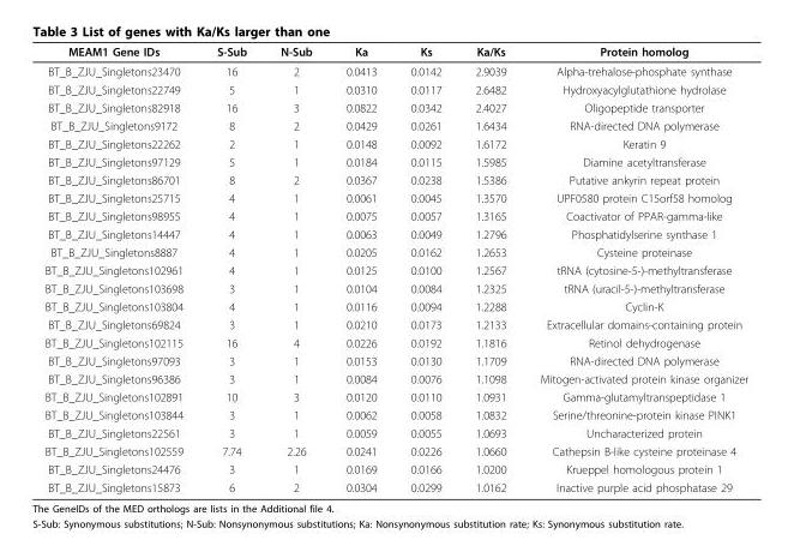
<table><thead><tr><td>MEAM1 Gene IDs</td><td>S-Sub</td><td>N-Sub</td><td>Ka</td><td>Ks</td><td>Ka/Ks</td><td>Protein homolog</td></tr></thead><tbody><tr><td>BT_B_ZJU_Singletons23470</td><td>16</td><td>2</td><td>0.0413</td><td>0.0142</td><td>2.9039</td><td>Alpha-trehalose-phosphate synthase</td></tr><tr><td>BT_B_ZJU_Singletons22749</td><td>5</td><td>1</td><td>0.0310</td><td>0.0117</td><td>2.6482</td><td>Hydroxyacylglutathione hydrolase</td></tr><tr><td>BT_B_ZJU_Singletons82918</td><td>16</td><td>3</td><td>0.0822</td><td>0.0342</td><td>2.4027</td><td>Oligopeptide transporter</td></tr><tr><td>BT_B_ZJU_Singletons9172</td><td>8</td><td>2</td><td>0.0429</td><td>0.0261</td><td>1.6434</td><td>RNA-directed DNA polymerase</td></tr><tr><td>BT_B_ZJU_Singletons22262</td><td>2</td><td>1</td><td>0.0148</td><td>0.0092</td><td>1.6172</td><td>Keratin 9</td></tr><tr><td>BT_B_ZJU_Singletons97129</td><td>5</td><td>1</td><td>0.0184</td><td>0.0115</td><td>1.5985</td><td>Diamine acetyltransferase</td></tr><tr><td>BT_B_ZJU_Singletons86701</td><td>8</td><td>2</td><td>0.0367</td><td>0.0238</td><td>1.5386</td><td>Putative ankyrin repeat protein</td></tr><tr><td>BT_B_ZJU_Singletons25715</td><td>4</td><td>1</td><td>0.0061</td><td>0.0045</td><td>1.3570</td><td>UPF0580 protein C15orf58 homolog</td></tr><tr><td>BT_B_ZJU_Singletons98955</td><td>4</td><td>1</td><td>0.0075</td><td>0.0057</td><td>1.3165</td><td>Coactivator of PPAR-gamma-like</td></tr><tr><td>BT_B_ZJU_Singletons14447</td><td>4</td><td>1</td><td>0.0063</td><td>0.0049</td><td>1.2796</td><td>Phosphatidylserine synthase 1</td></tr><tr><td>BT_B_ZJU_Singletons8887</td><td>4</td><td>1</td><td>0.0205</td><td>0.0162</td><td>1.2653</td><td>Cysteine proteinase</td></tr><tr><td>BT_B_ZJU_Singletons102961</td><td>4</td><td>1</td><td>0.0125</td><td>0.0100</td><td>1.2567</td><td>tRNA (cytosine-5-)-methyltransferase</td></tr><tr><td>BT_B_ZJU_Singletons103698</td><td>3</td><td>1</td><td>0.0104</td><td>0.0084</td><td>1.2325</td><td>tRNA (uracil-5-)-methyltransferase</td></tr><tr><td>BT_B_ZJU_Singletons103804</td><td>4</td><td>1</td><td>0.0116</td><td>0.0094</td><td>1.2288</td><td>Cyclin-K</td></tr><tr><td>BT_B_ZJU_Singletons69824</td><td>3</td><td>1</td><td>0.0210</td><td>0.0173</td><td>1.2133</td><td>Extracellular domains-containing protein</td></tr><tr><td>BT_B_ZJU_Singletons102115</td><td>16</td><td>4</td><td>0.0226</td><td>0.0192</td><td>1.1816</td><td>Retinol dehydrogenase</td></tr><tr><td>BT_B_ZJU_Singletons97093</td><td>3</td><td>1</td><td>0.0153</td><td>0.0130</td><td>1.1709</td><td>RNA-directed DNA polymerase</td></tr><tr><td>BT_B_ZJU_Singletons96386</td><td>3</td><td>1</td><td>0.0084</td><td>0.0076</td><td>1.1098</td><td>Mitogen-activated protein kinase organizer</td></tr><tr><td>BT_B_ZJU_Singletons102891</td><td>10</td><td>3</td><td>0.0120</td><td>0.0110</td><td>1.0931</td><td>Gamma-glutamyltranspeptidase 1</td></tr><tr><td>BT_B_ZJU_Singletons103844</td><td>3</td><td>1</td><td>0.0062</td><td>0.0058</td><td>1.0832</td><td>Serine/threonine-protein kinase PINK1</td></tr><tr><td>BT_B_ZJU_Singletons22561</td><td>3</td><td>1</td><td>0.0059</td><td>0.0055</td><td>1.0693</td><td>Uncharacterized protein</td></tr><tr><td>BT_B_ZJU_Singletons102559</td><td>7.74</td><td>2.26</td><td>0.0241</td><td>0.0226</td><td>1.0660</td><td>Cathepsin B-like cysteine proteinase 4</td></tr><tr><td>BT_B_ZJU_Singletons24476</td><td>3</td><td>1</td><td>0.0169</td><td>0.0166</td><td>1.0200</td><td>Krueppel homologous protein 1</td></tr><tr><td>BT_B_ZJU_Singletons15873</td><td>6</td><td>2</td><td>0.0304</td><td>0.0299</td><td>1.0162</td><td>Inactive purple acid phosphatase 29</td></tr></tbody></table>